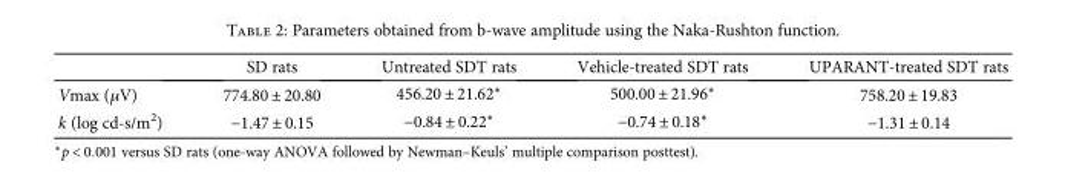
<table><thead><tr><td></td><td>SD rats</td><td>Untreated SDT rats</td><td>Vehicle-treated SDT rats</td><td>UPARANT-treated SDT rats</td></tr></thead><tbody><tr><td>Vmax (μV)</td><td>774.80 ± 20.80</td><td>456.20 ± 21.62∗</td><td>500.00 ± 21.96∗</td><td>758.20 ± 19.83</td></tr><tr><td>k (log cd-s/m<sup>2</sup>)</td><td>−1.47 ± 0.15</td><td>−0.84 ± 0.22∗</td><td>−0.74 ± 0.18∗</td><td>−1.31 ± 0.14</td></tr></tbody></table>